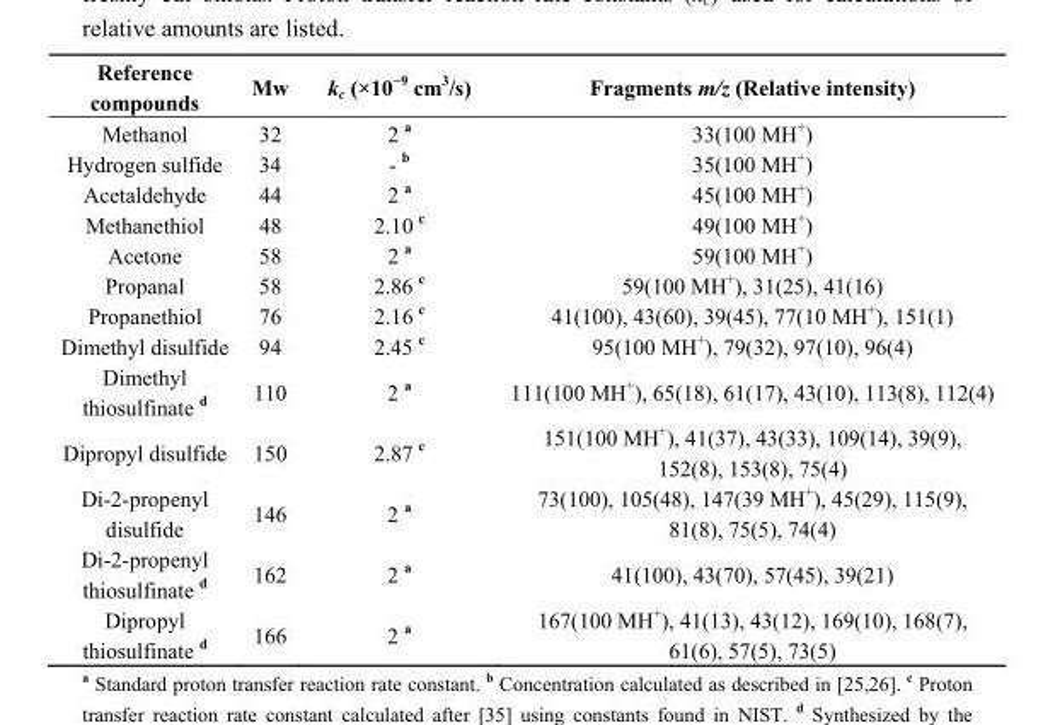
<table><thead><tr><td>Reference compounds</td><td>Mw</td><td>k<sub>c</sub> (×10<sup>−9</sup> cm<sup>3</sup>/s)</td><td>Fragments m/z (Relative intensity)</td></tr></thead><tbody><tr><td>Methanol</td><td>32</td><td>2 <sup>a</sup></td><td>33(100 MH<sup>+</sup>)</td></tr><tr><td>Hydrogen sulfide</td><td>34</td><td>- <sup>b</sup></td><td>35(100 MH<sup>+</sup>)</td></tr><tr><td>Acetaldehyde</td><td>44</td><td>2 <sup>a</sup></td><td>45(100 MH<sup>+</sup>)</td></tr><tr><td>Methanethiol</td><td>48</td><td>2.10 <sup>c</sup></td><td>49(100 MH<sup>+</sup>)</td></tr><tr><td>Acetone</td><td>58</td><td>2 <sup>a</sup></td><td>59(100 MH<sup>+</sup>)</td></tr><tr><td>Propanal</td><td>58</td><td>2.86 <sup>c</sup></td><td>59(100 MH<sup>+</sup>), 31(25), 41(16)</td></tr><tr><td>Propanethiol</td><td>76</td><td>2.16 <sup>c</sup></td><td>41(100), 43(60), 39(45), 77(10 MH<sup>+</sup>), 151(1)</td></tr><tr><td>Dimethyl disulfide</td><td>94</td><td>2.45 <sup>c</sup></td><td>95(100 MH<sup>+</sup>), 79(32), 97(10), 96(4)</td></tr><tr><td>Dimethyl thiosulfinate <sup>d</sup></td><td>110</td><td>2 <sup>a</sup></td><td>111(100 MH<sup>+</sup>), 65(18), 61(17), 43(10), 113(8), 112(4)</td></tr><tr><td>Dipropyl disulfide</td><td>150</td><td>2.87 <sup>c</sup></td><td>151(100 MH<sup>+</sup>), 41(37), 43(33), 109(14), 39(9), 152(8), 153(8), 75(4)</td></tr><tr><td>Di-2-propenyl disulfide</td><td>146</td><td>2 <sup>a</sup></td><td>73(100), 105(48), 147(39 MH<sup>+</sup>), 45(29), 115(9), 81(8), 75(5), 74(4)</td></tr><tr><td>Di-2-propenyl thiosulfinate <sup>d</sup></td><td>162</td><td>2 <sup>a</sup></td><td>41(100), 43(70), 57(45), 39(21)</td></tr><tr><td>Dipropyl thiosulfinate <sup>d</sup></td><td>166</td><td>2 <sup>a</sup></td><td>167(100 MH<sup>+</sup>), 41(13), 43(12), 169(10), 168(7), 61(6), 57(5), 73(5)</td></tr></tbody></table>